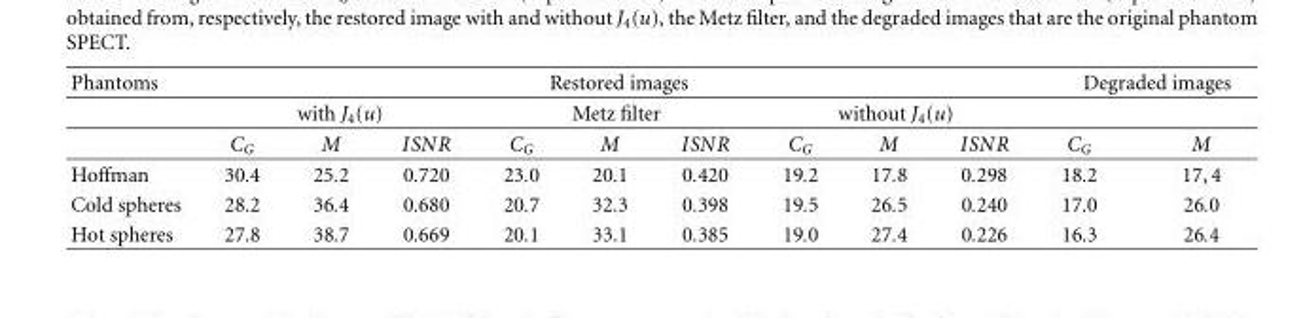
<table><thead><tr><td rowspan="3">Phantoms</td><td colspan="9">Restored images</td><td colspan="2">Degraded images</td></tr><tr><td colspan="3">with J<sub>4</sub>(u)</td><td colspan="3">Metz filter</td><td colspan="3">without J<sub>4</sub>(u)</td><td rowspan="2">C<sub>G</sub></td><td rowspan="2">M</td></tr><tr><td>C<sub>G</sub></td><td>M</td><td>ISNR</td><td>C<sub>G</sub></td><td>M</td><td>ISNR</td><td>C<sub>G</sub></td><td>M</td><td>ISNR</td></tr></thead><tbody><tr><td>Hoffman</td><td>30.4</td><td>25.2</td><td>0.720</td><td>23.0</td><td>20.1</td><td>0.420</td><td>19.2</td><td>17.8</td><td>0.298</td><td>18.2</td><td>17,4</td></tr><tr><td>Cold spheres</td><td>28.2</td><td>36.4</td><td>0.680</td><td>20.7</td><td>32.3</td><td>0.398</td><td>19.5</td><td>26.5</td><td>0.240</td><td>17.0</td><td>26.0</td></tr><tr><td>Hot spheres</td><td>27.8</td><td>38.7</td><td>0.669</td><td>20.1</td><td>33.1</td><td>0.385</td><td>19.0</td><td>27.4</td><td>0.226</td><td>16.3</td><td>26.4</td></tr></tbody></table>